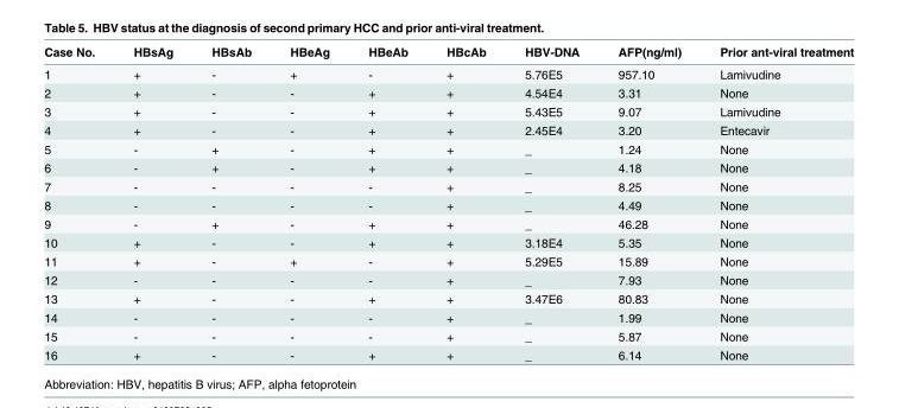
<table><thead><tr><td>Case No.</td><td>HBsAg</td><td>HBsAb</td><td>HBeAg</td><td>HBeAb</td><td>HBcAb</td><td>HBV-DNA</td><td>AFP(ng/ml)</td><td>Prior ant-viral treatment</td></tr></thead><tbody><tr><td>1</td><td>+</td><td>-</td><td>+</td><td>-</td><td>+</td><td>5.76E5</td><td>957.10</td><td>Lamivudine</td></tr><tr><td>2</td><td>+</td><td>-</td><td>-</td><td>+</td><td>+</td><td>4.54E4</td><td>3.31</td><td>None</td></tr><tr><td>3</td><td>+</td><td>-</td><td>-</td><td>+</td><td>+</td><td>5.43E5</td><td>9.07</td><td>Lamivudine</td></tr><tr><td>4</td><td>+</td><td>-</td><td>-</td><td>+</td><td>+</td><td>2.45E4</td><td>3.20</td><td>Entecavir</td></tr><tr><td>5</td><td>-</td><td>+</td><td>-</td><td>+</td><td>+</td><td>_</td><td>1.24</td><td>None</td></tr><tr><td>6</td><td>-</td><td>+</td><td>-</td><td>+</td><td>+</td><td>_</td><td>4.18</td><td>None</td></tr><tr><td>7</td><td>-</td><td>-</td><td>-</td><td>-</td><td>+</td><td>_</td><td>8.25</td><td>None</td></tr><tr><td>8</td><td>-</td><td>-</td><td>-</td><td>-</td><td>+</td><td>_</td><td>4.49</td><td>None</td></tr><tr><td>9</td><td>-</td><td>+</td><td>-</td><td>+</td><td>+</td><td>_</td><td>46.28</td><td>None</td></tr><tr><td>10</td><td>+</td><td>-</td><td>-</td><td>+</td><td>+</td><td>3.18E4</td><td>5.35</td><td>None</td></tr><tr><td>11</td><td>+</td><td>-</td><td>+</td><td>-</td><td>+</td><td>5.29E5</td><td>15.89</td><td>None</td></tr><tr><td>12</td><td>-</td><td>-</td><td>-</td><td>-</td><td>+</td><td>_</td><td>7.93</td><td>None</td></tr><tr><td>13</td><td>+</td><td>-</td><td>-</td><td>+</td><td>+</td><td>3.47E6</td><td>80.83</td><td>None</td></tr><tr><td>14</td><td>-</td><td>-</td><td>-</td><td>-</td><td>+</td><td>_</td><td>1.99</td><td>None</td></tr><tr><td>15</td><td>-</td><td>-</td><td>-</td><td>-</td><td>+</td><td>_</td><td>5.87</td><td>None</td></tr><tr><td>16</td><td>+</td><td>-</td><td>-</td><td>+</td><td>+</td><td>_</td><td>6.14</td><td>None</td></tr></tbody></table>